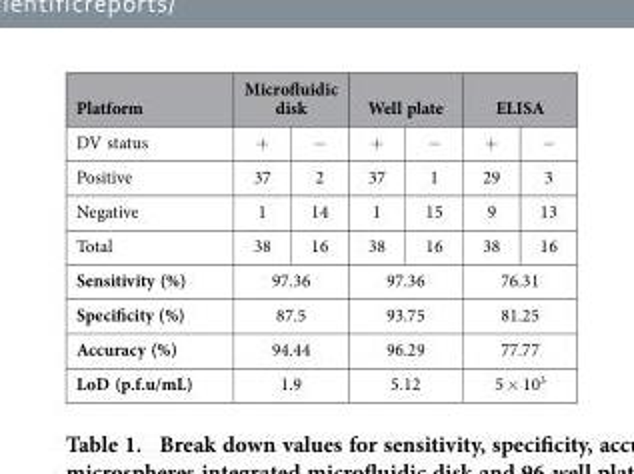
<table><thead><tr><td rowspan="2">Platform DV status</td><td colspan="2">Microfluidic disk</td><td colspan="2">Well plate</td><td colspan="2">ELISA</td></tr><tr><td>+</td><td>−</td><td>+</td><td>−</td><td>+</td><td>−</td></tr></thead><tbody><tr><td>Positive</td><td>37</td><td>2</td><td>37</td><td>1</td><td>29</td><td>3</td></tr><tr><td>Negative</td><td>1</td><td>14</td><td>1</td><td>15</td><td>9</td><td>13</td></tr><tr><td>Total</td><td>38</td><td>16</td><td>38</td><td>16</td><td>38</td><td>16</td></tr><tr><td>Sensitivity (%)</td><td colspan="2">97.36</td><td colspan="2">97.36</td><td colspan="2">76.31</td></tr><tr><td>Specificity (%)</td><td colspan="2">87.5</td><td colspan="2">93.75</td><td colspan="2">81.25</td></tr><tr><td>Accuracy (%)</td><td colspan="2">94.44</td><td colspan="2">96.29</td><td colspan="2">77.77</td></tr><tr><td>LoD (p.f.u/mL)</td><td colspan="2">1.9</td><td colspan="2">5.12</td><td colspan="2">5 × 10<sup>3</sup></td></tr></tbody></table>